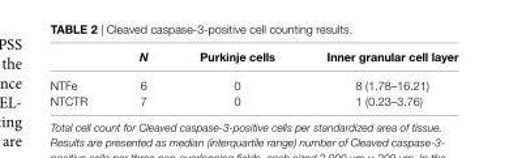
<table><thead><tr><td></td><td>N</td><td>Purkinje cells</td><td>inner granular cell layer</td></tr></thead><tbody><tr><td>NTFe</td><td>6</td><td>0</td><td>8 (1.78–16.21)</td></tr><tr><td>NTCTR</td><td>7</td><td>0</td><td>1 (0.23–3.76)</td></tr></tbody></table>